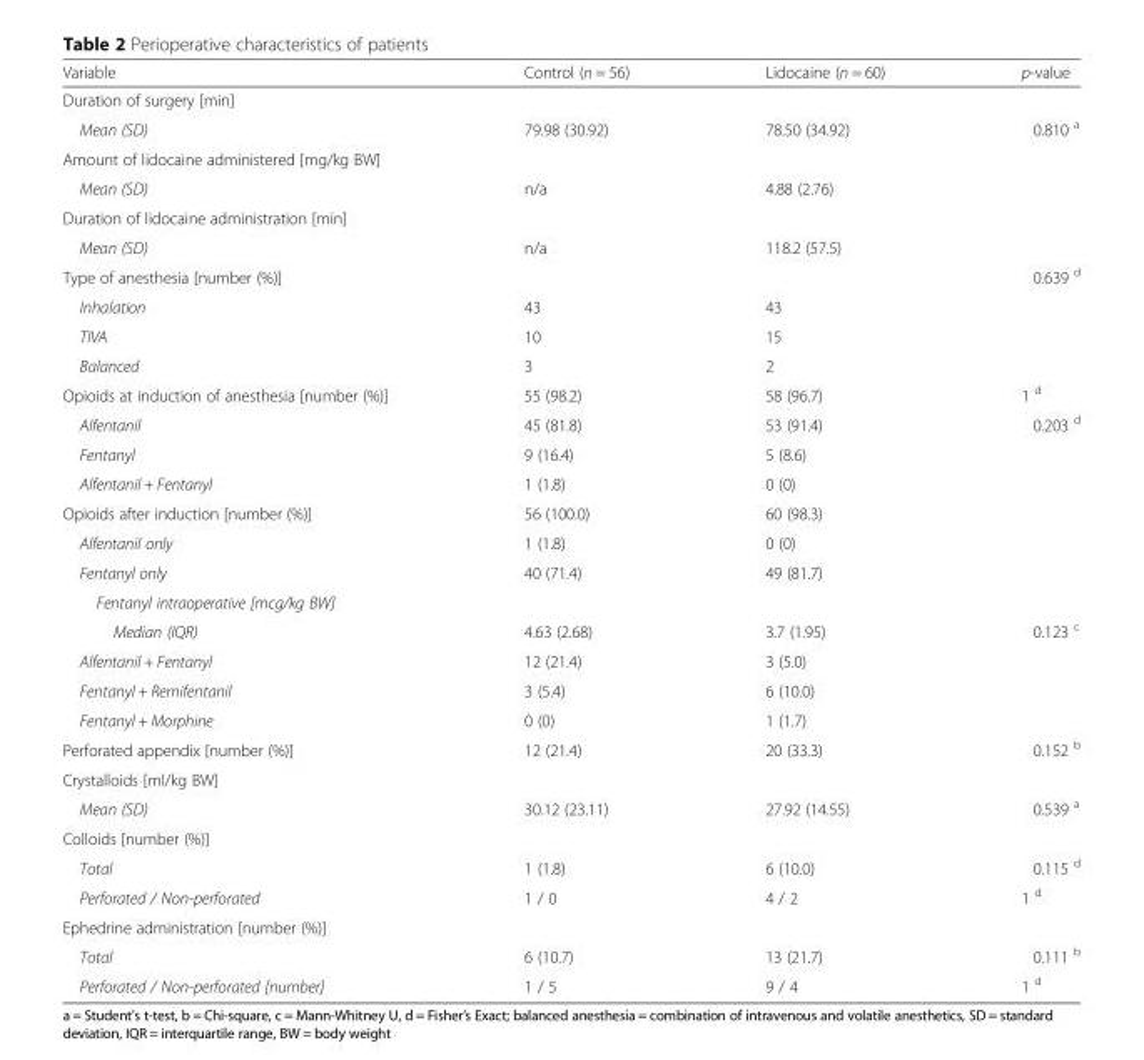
<table><thead><tr><td>Variable</td><td>Control (n = 56)</td><td>Lidocaine (n = 60)</td><td>p-value</td></tr></thead><tbody><tr><td colspan="4">Duration of surgery [min]</td></tr><tr><td>Mean (SD)</td><td>79.98 (30.92)</td><td>78.50 (34.92)</td><td>0.810 <sup>a</sup></td></tr><tr><td colspan="4">Amount of lidocaine administered [mg/kg BW]</td></tr><tr><td>Mean (SD)</td><td>n/a</td><td>4.88 (2.76)</td><td></td></tr><tr><td colspan="4">Duration of lidocaine administration [min]</td></tr><tr><td>Mean (SD)</td><td>n/a</td><td>118.2 (57.5)</td><td></td></tr><tr><td>Type of anesthesia [number (%)]</td><td></td><td></td><td>0.639 <sup>d</sup></td></tr><tr><td>Inhalation</td><td>43</td><td>43</td><td></td></tr><tr><td>TIVA</td><td>10</td><td>15</td><td></td></tr><tr><td>Balanced</td><td>3</td><td>2</td><td></td></tr><tr><td>Opioids at induction of anesthesia [number (%)]</td><td>55 (98.2)</td><td>58 (96.7)</td><td>1 <sup>d</sup></td></tr><tr><td>Alfentanil</td><td>45 (81.8)</td><td>53 (91.4)</td><td>0.203 <sup>d</sup></td></tr><tr><td>Fentanyl</td><td>9 (16.4)</td><td>5 (8.6)</td><td></td></tr><tr><td>Alfentanil + Fentanyl</td><td>1 (1.8)</td><td>0 (0)</td><td></td></tr><tr><td>Opioids after induction [number (%)]</td><td>56 (100.0)</td><td>60 (98.3)</td><td></td></tr><tr><td>Alfentanil only</td><td>1 (1.8)</td><td>0 (0)</td><td></td></tr><tr><td>Fentanyl only</td><td>40 (71.4)</td><td>49 (81.7)</td><td></td></tr><tr><td colspan="4">Fentanyl intraoperative [mcg/kg BW]</td></tr><tr><td>Median (IQR)</td><td>4.63 (2.68)</td><td>3.7 (1.95)</td><td>0.123 <sup>c</sup></td></tr><tr><td>Alfentanil + Fentanyl</td><td>12 (21.4)</td><td>3 (5.0)</td><td></td></tr><tr><td>Fentanyl + Remifentanil</td><td>3 (5.4)</td><td>6 (10.0)</td><td></td></tr><tr><td>Fentanyl + Morphine</td><td>0 (0)</td><td>1 (1.7)</td><td></td></tr><tr><td>Perforated appendix [number (%)]</td><td>12 (21.4)</td><td>20 (33.3)</td><td>0.152 <sup>b</sup></td></tr><tr><td colspan="4">Crystalloids [ml/kg BW]</td></tr><tr><td>Mean (SD)</td><td>30.12 (23.11)</td><td>27.92 (14.55)</td><td>0.539 <sup>a</sup></td></tr><tr><td colspan="4">Colloids [number (%)]</td></tr><tr><td>Total</td><td>1 (1.8)</td><td>6 (10.0)</td><td>0.115 <sup>d</sup></td></tr><tr><td>Perforated / Non-perforated</td><td>1 / 0</td><td>4 / 2</td><td>1 <sup>d</sup></td></tr><tr><td colspan="4">Ephedrine administration [number (%)]</td></tr><tr><td>Total</td><td>6 (10.7)</td><td>13 (21.7)</td><td>0.111 <sup>b</sup></td></tr><tr><td>Perforated / Non-perforated [number]</td><td>1 / 5</td><td>9 / 4</td><td>1 <sup>d</sup></td></tr></tbody></table>